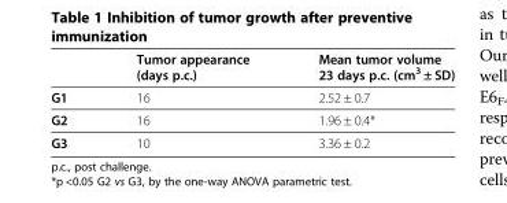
<table><thead><tr><td></td><td>Tumor appearance (days p.c.)</td><td>Mean tumor volume 23 days p.c. (cm<sup>3</sup> ± SD)</td></tr></thead><tbody><tr><td>G1</td><td>16</td><td>2.52 ± 0.7</td></tr><tr><td>G2</td><td>16</td><td>1.96 ± 0.4*</td></tr><tr><td>G3</td><td>10</td><td>3.36 ± 0.2</td></tr></tbody></table>